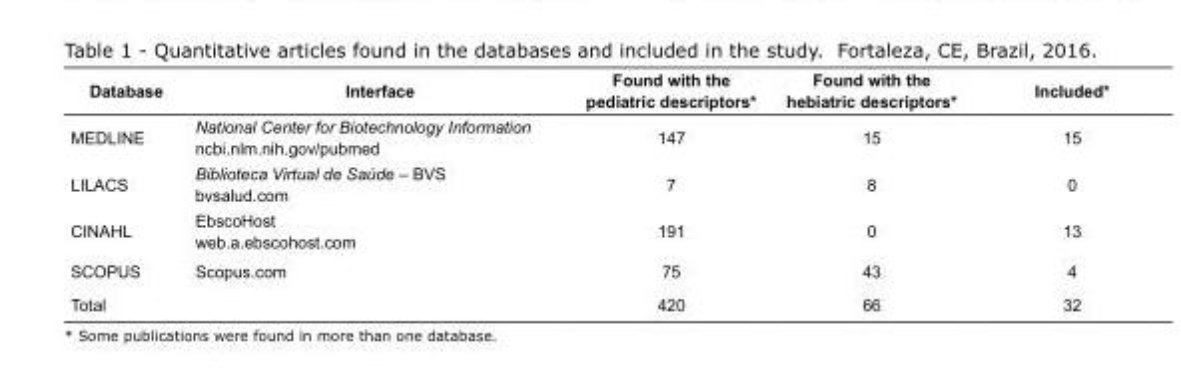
<table><tbody><tr><td>Database</td><td>Interface</td><td>Found with the pediatric descriptors*</td><td>Found with the hebiatric descriptors*</td><td>Included*</td></tr><tr><td>MEDLINE</td><td>National Center for Biotechnology Information ncbi.nlm.nih.gov/pubmed</td><td>147</td><td>15</td><td>15</td></tr><tr><td>LILACS</td><td>Biblioteca Virtual de Saúde – BVS bvsalud.com</td><td>7</td><td>8</td><td>0</td></tr><tr><td>CINAHL</td><td>EbscoHost web.a.ebscohost.com</td><td>191</td><td>0</td><td>13</td></tr><tr><td>SCOPUS</td><td>Scopus.com</td><td>75</td><td>43</td><td>4</td></tr><tr><td>Total</td><td></td><td>420</td><td>66</td><td>32</td></tr></tbody></table>